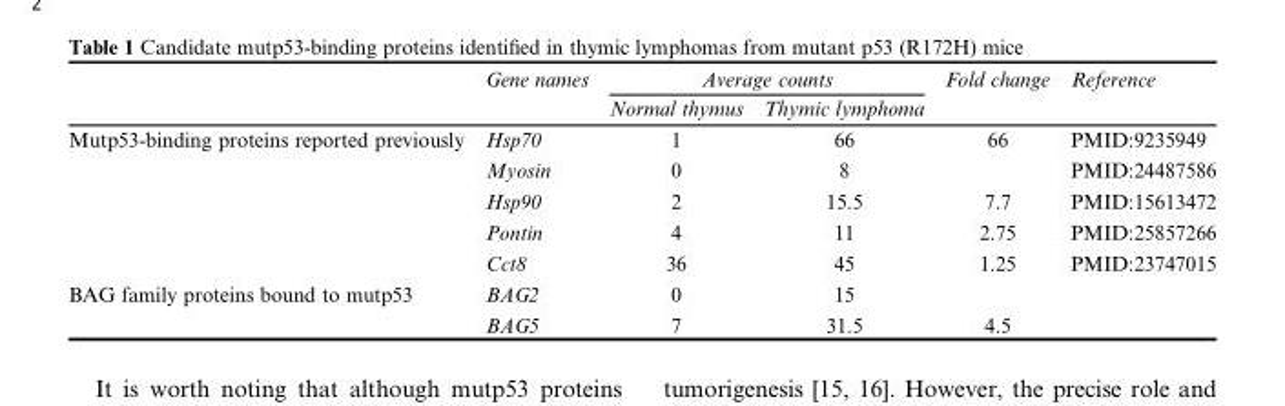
<table><thead><tr><td rowspan="2"></td><td rowspan="2">Gene names</td><td colspan="2">Average counts</td><td rowspan="2">Fold change</td><td rowspan="2">Reference</td></tr><tr><td>Normal thymus</td><td>Thymic lymphoma</td></tr></thead><tbody><tr><td rowspan="5">Mutp53-binding proteins reported previously</td><td>Hsp70</td><td>1</td><td>66</td><td>66</td><td>PMID:9235949</td></tr><tr><td>Myosin</td><td>0</td><td>8</td><td></td><td>PMID:24487586</td></tr><tr><td>Hsp90</td><td>2</td><td>15.5</td><td>7.7</td><td>PMID:15613472</td></tr><tr><td>Pontin</td><td>4</td><td>11</td><td>2.75</td><td>PMID:25857266</td></tr><tr><td>Cct8</td><td>36</td><td>45</td><td>1.25</td><td>PMID:23747015</td></tr><tr><td rowspan="2">BAG family proteins bound to mutp53</td><td>BAG2</td><td>0</td><td>15</td><td></td><td></td></tr><tr><td>BAG5</td><td>7</td><td>31.5</td><td>4.5</td><td></td></tr></tbody></table>